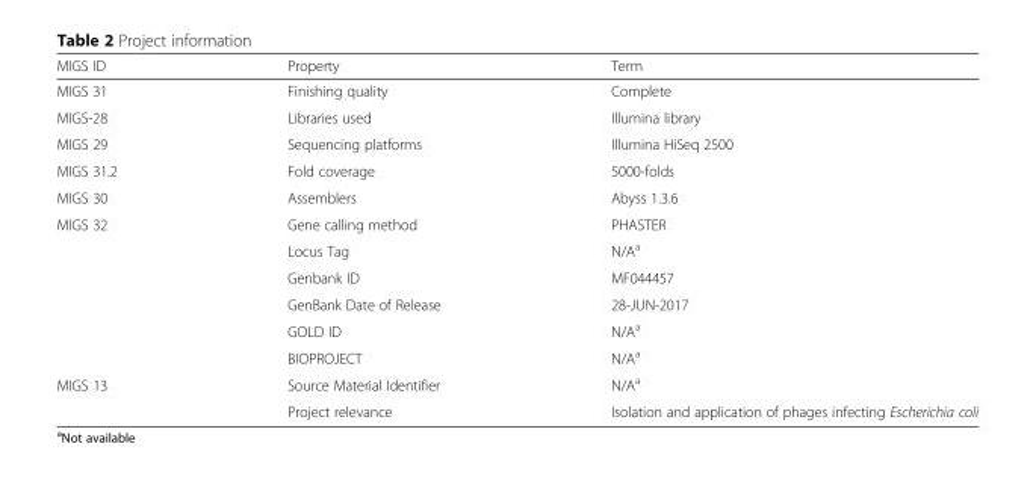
<table><thead><tr><td>MIGS ID</td><td>Property</td><td>Term</td></tr></thead><tbody><tr><td>MIGS 31</td><td>Finishing quality</td><td>Complete</td></tr><tr><td>MIGS-28</td><td>Libraries used</td><td>Illumina library</td></tr><tr><td>MIGS 29</td><td>Sequencing platforms</td><td>Illumina HiSeq 2500</td></tr><tr><td>MIGS 31.2</td><td>Fold coverage</td><td>5000-folds</td></tr><tr><td>MIGS 30</td><td>Assemblers</td><td>Abyss 1.3.6</td></tr><tr><td rowspan="6">MIGS 32</td><td>Gene calling method</td><td>PHASTER</td></tr><tr><td>Locus Tag</td><td>N/A<sup>a</sup></td></tr><tr><td>Genbank ID</td><td>MF044457</td></tr><tr><td>GenBank Date of Release</td><td>28-JUN-2017</td></tr><tr><td>GOLD ID</td><td>N/A<sup>a</sup></td></tr><tr><td>BIOPROJECT</td><td>N/A<sup>a</sup></td></tr><tr><td rowspan="2">MIGS 13</td><td>Source Material Identifier</td><td>N/A<sup>a</sup></td></tr><tr><td>Project relevance</td><td>Isolation and application of phages infecting Escherichia coli</td></tr></tbody></table>